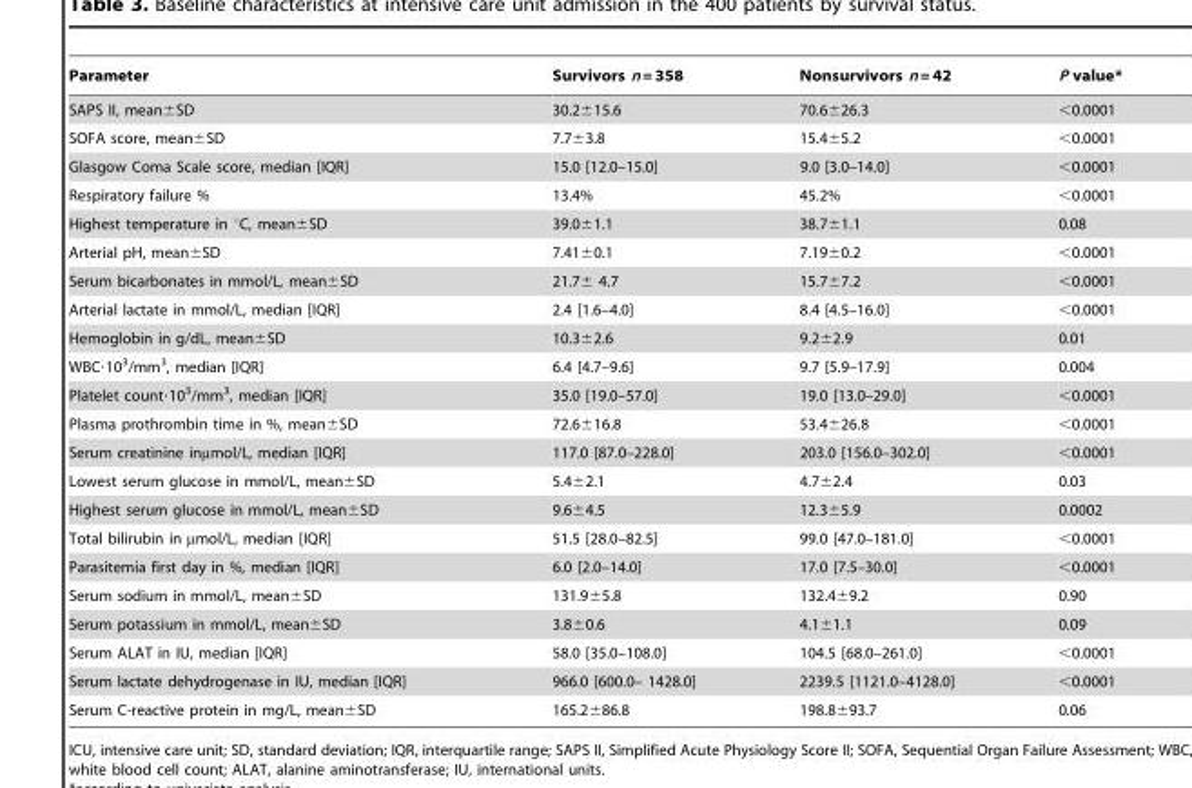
<table><thead><tr><td>Parameter</td><td>Survivors n = 358</td><td>Nonsurvivors n = 42</td><td>P value*</td></tr></thead><tbody><tr><td>SAPS II, mean±SD</td><td>30.2±15.6</td><td>70.6±26.3</td><td>&lt;0.0001</td></tr><tr><td>SOFA score, mean±SD</td><td>7.7±3.8</td><td>15.4±5.2</td><td>&lt;0.0001</td></tr><tr><td>Glasgow Coma Scale score, median [IQR]</td><td>15.0 [12.0–15.0]</td><td>9.0 [3.0–14.0]</td><td>&lt;0.0001</td></tr><tr><td>Respiratory failure %</td><td>13.4%</td><td>45.2%</td><td>&lt;0.0001</td></tr><tr><td>Highest temperature in °C, mean±SD</td><td>39.0±1.1</td><td>38.7±1.1</td><td>0.08</td></tr><tr><td>Arterial pH, mean±SD</td><td>7.41±0.1</td><td>7.19±0.2</td><td>&lt;0.0001</td></tr><tr><td>Serum bicarbonates in mmol/L, mean±SD</td><td>21.7± 4.7</td><td>15.7±7.2</td><td>&lt;0.0001</td></tr><tr><td>Arterial lactate in mmol/L, median [IQR]</td><td>2.4 [1.6–4.0]</td><td>8.4 [4.5–16.0]</td><td>&lt;0.0001</td></tr><tr><td>Hemoglobin in g/dL, mean±SD</td><td>10.3±2.6</td><td>9.2±2.9</td><td>0.01</td></tr><tr><td>WBC·10<sup>3</sup>/mm<sup>3</sup>, median [IQR]</td><td>6.4 [4.7–9.6]</td><td>9.7 [5.9–17.9]</td><td>0.004</td></tr><tr><td>Platelet count·10<sup>3</sup>/mm<sup>3</sup>, median [IQR]</td><td>35.0 [19.0–57.0]</td><td>19.0 [13.0–29.0]</td><td>&lt;0.0001</td></tr><tr><td>Plasma prothrombin time in %, mean±SD</td><td>72.6±16.8</td><td>53.4±26.8</td><td>&lt;0.0001</td></tr><tr><td>Serum creatinine inµmol/L, median [IQR]</td><td>117.0 [87.0–228.0]</td><td>203.0 [156.0–302.0]</td><td>&lt;0.0001</td></tr><tr><td>Lowest serum glucose in mmol/L, mean±SD</td><td>5.4±2.1</td><td>4.7±2.4</td><td>0.03</td></tr><tr><td>Highest serum glucose in mmol/L, mean±SD</td><td>9.6±4.5</td><td>12.3±5.9</td><td>0.0002</td></tr><tr><td>Total bilirubin in µmol/L, median [IQR]</td><td>51.5 [28.0–82.5]</td><td>99.0 [47.0–181.0]</td><td>&lt;0.0001</td></tr><tr><td>Parasitemia first day in %, median [IQR]</td><td>6.0 [2.0–14.0]</td><td>17.0 [7.5–30.0]</td><td>&lt;0.0001</td></tr><tr><td>Serum sodium in mmol/L, mean±SD</td><td>131.9±5.8</td><td>132.4±9.2</td><td>0.90</td></tr><tr><td>Serum potassium in mmol/L, mean±SD</td><td>3.8±0.6</td><td>4.1±1.1</td><td>0.09</td></tr><tr><td>Serum ALAT in IU, median [IQR]</td><td>58.0 [35.0–108.0]</td><td>104.5 [68.0–261.0]</td><td>&lt;0.0001</td></tr><tr><td>Serum lactate dehydrogenase in IU, median [IQR]</td><td>966.0 [600.0– 1428.0]</td><td>2239.5 [1121.0–4128.0]</td><td>&lt;0.0001</td></tr><tr><td>Serum C-reactive protein in mg/L, mean±SD</td><td>165.2±86.8</td><td>198.8±93.7</td><td>0.06</td></tr></tbody></table>